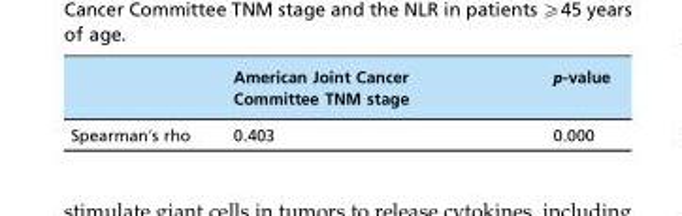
<table><thead><tr><td></td><td>American Joint Cancer Committee TNM stage</td><td>p-value</td></tr></thead><tbody><tr><td>Spearman’s rho</td><td>0.403</td><td>0.000</td></tr></tbody></table>